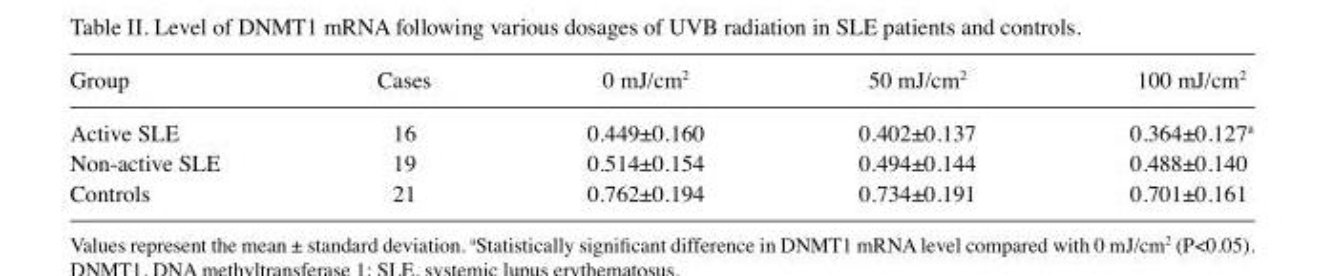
<table><thead><tr><td>Group</td><td>Cases</td><td>0 mJ/cm<sup>2</sup></td><td>50 mJ/cm<sup>2</sup></td><td>100 mJ/cm<sup>2</sup></td></tr></thead><tbody><tr><td>Active SLE</td><td>16</td><td>0.449±0.160</td><td>0.402±0.137</td><td>0.364±0.127<sup>a</sup></td></tr><tr><td>Non-active SLE</td><td>19</td><td>0.514±0.154</td><td>0.494±0.144</td><td>0.488±0.140</td></tr><tr><td>Controls</td><td>21</td><td>0.762±0.194</td><td>0.734±0.191</td><td>0.701±0.161</td></tr></tbody></table>